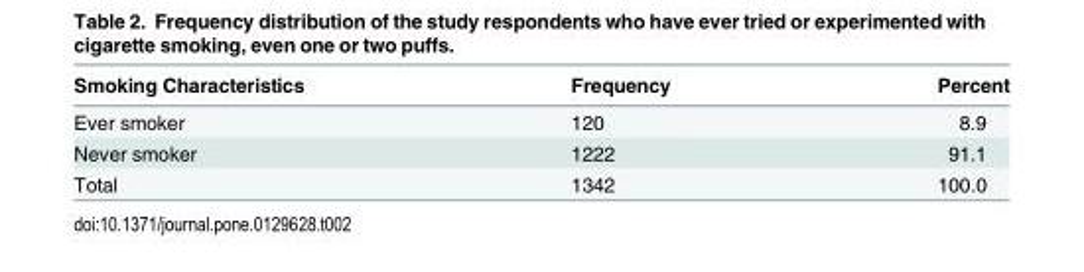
<table><thead><tr><td>Smoking Characteristics</td><td>Frequency</td><td>Percent</td></tr></thead><tbody><tr><td>Ever smoker</td><td>120</td><td>8.9</td></tr><tr><td>Never smoker</td><td>1222</td><td>91.1</td></tr><tr><td>Total</td><td>1342</td><td>100.0</td></tr></tbody></table>